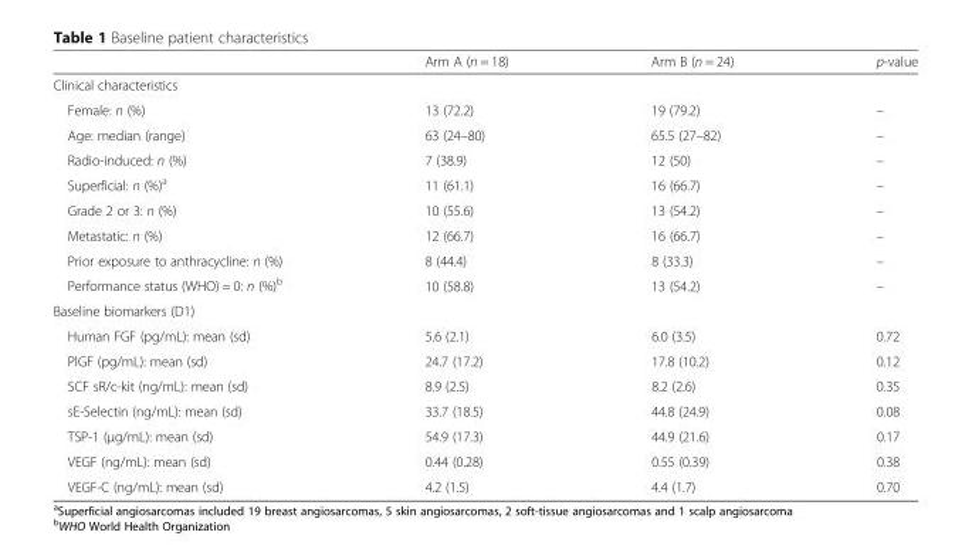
<table><thead><tr><td></td><td>Arm A (n = 18)</td><td>Arm B (n = 24)</td><td>p-value</td></tr></thead><tbody><tr><td colspan="4">Clinical characteristics</td></tr><tr><td>Female: n (%)</td><td>13 (72.2)</td><td>19 (79.2)</td><td>–</td></tr><tr><td>Age: median (range)</td><td>63 (24–80)</td><td>65.5 (27–82)</td><td>–</td></tr><tr><td>Radio-induced: n (%)</td><td>7 (38.9)</td><td>12 (50)</td><td>–</td></tr><tr><td>Superficial: n (%)<sup>a</sup></td><td>11 (61.1)</td><td>16 (66.7)</td><td>–</td></tr><tr><td>Grade 2 or 3: n (%)</td><td>10 (55.6)</td><td>13 (54.2)</td><td>–</td></tr><tr><td>Metastatic: n (%)</td><td>12 (66.7)</td><td>16 (66.7)</td><td>–</td></tr><tr><td>Prior exposure to anthracycline: n (%)</td><td>8 (44.4)</td><td>8 (33.3)</td><td>–</td></tr><tr><td>Performance status (WHO) = 0: n (%)<sup>b</sup></td><td>10 (58.8)</td><td>13 (54.2)</td><td>–</td></tr><tr><td colspan="4">Baseline biomarkers (D1)</td></tr><tr><td>Human FGF (pg/mL): mean (sd)</td><td>5.6 (2.1)</td><td>6.0 (3.5)</td><td>0.72</td></tr><tr><td>PlGF (pg/mL): mean (sd)</td><td>24.7 (17.2)</td><td>17.8 (10.2)</td><td>0.12</td></tr><tr><td>SCF sR/c-kit (ng/mL): mean (sd)</td><td>8.9 (2.5)</td><td>8.2 (2.6)</td><td>0.35</td></tr><tr><td>sE-Selectin (ng/mL): mean (sd)</td><td>33.7 (18.5)</td><td>44.8 (24.9)</td><td>0.08</td></tr><tr><td>TSP-1 (μg/mL): mean (sd)</td><td>54.9 (17.3)</td><td>44.9 (21.6)</td><td>0.17</td></tr><tr><td>VEGF (ng/mL): mean (sd)</td><td>0.44 (0.28)</td><td>0.55 (0.39)</td><td>0.38</td></tr><tr><td>VEGF-C (ng/mL): mean (sd)</td><td>4.2 (1.5)</td><td>4.4 (1.7)</td><td>0.70</td></tr></tbody></table>